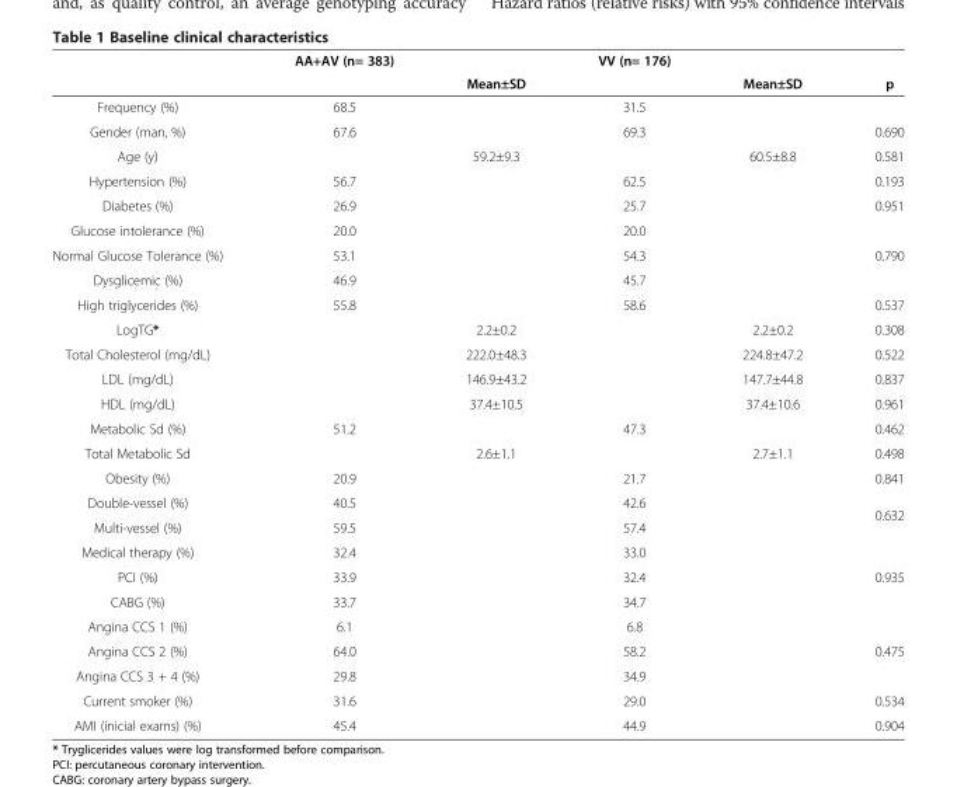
<table><thead><tr><td rowspan="2"></td><td rowspan="2">AA+AV (n= 383)</td><td rowspan="2">Mean±SD</td><td rowspan="2">VV (n= 176)</td><td rowspan="2">Mean±SD</td><td rowspan="2">p</td></tr><tr></tr></thead><tbody><tr><td>Frequency (%)</td><td>68.5</td><td></td><td>31.5</td><td></td><td></td></tr><tr><td>Gender (man, %)</td><td>67.6</td><td></td><td>69.3</td><td></td><td>0.690</td></tr><tr><td>Age (y)</td><td></td><td>59.2±9.3</td><td></td><td>60.5±8.8</td><td>0.581</td></tr><tr><td>Hypertension (%)</td><td>56.7</td><td></td><td>62.5</td><td></td><td>0.193</td></tr><tr><td>Diabetes (%)</td><td>26.9</td><td></td><td>25.7</td><td></td><td>0.951</td></tr><tr><td>Glucose intolerance (%)</td><td>20.0</td><td></td><td>20.0</td><td></td><td rowspan="3">0.790</td></tr><tr><td>Normal Glucose Tolerance (%)</td><td>53.1</td><td></td><td>54.3</td><td></td></tr><tr><td>Dysglicemic (%)</td><td>46.9</td><td></td><td>45.7</td><td></td></tr><tr><td>High triglycerides (%)</td><td>55.8</td><td></td><td>58.6</td><td></td><td>0.537</td></tr><tr><td>LogTG*</td><td></td><td>2.2±0.2</td><td></td><td>2.2±0.2</td><td>0.308</td></tr><tr><td>Total Cholesterol (mg/dL)</td><td></td><td>222.0±48.3</td><td></td><td>224.8±47.2</td><td>0.522</td></tr><tr><td>LDL (mg/dL)</td><td></td><td>146.9±43.2</td><td></td><td>147.7±44.8</td><td>0.837</td></tr><tr><td>HDL (mg/dL)</td><td></td><td>37.4±10.5</td><td></td><td>37.4±10.6</td><td>0.961</td></tr><tr><td>Metabolic Sd (%)</td><td>51.2</td><td></td><td>47.3</td><td></td><td>0.462</td></tr><tr><td>Total Metabolic Sd</td><td></td><td>2.6±1.1</td><td></td><td>2.7±1.1</td><td>0.498</td></tr><tr><td>Obesity (%)</td><td>20.9</td><td></td><td>21.7</td><td></td><td>0.841</td></tr><tr><td>Double-vessel (%)</td><td>40.5</td><td></td><td>42.6</td><td></td><td rowspan="2">0.632</td></tr><tr><td>Multi-vessel (%)</td><td>59.5</td><td></td><td>57.4</td><td></td></tr><tr><td>Medical therapy (%)</td><td>32.4</td><td></td><td>33.0</td><td></td><td rowspan="3">0.935</td></tr><tr><td>PCI (%)</td><td>33.9</td><td></td><td>32.4</td><td></td></tr><tr><td>CABG (%)</td><td>33.7</td><td></td><td>34.7</td><td></td></tr><tr><td>Angina CCS 1 (%)</td><td>6.1</td><td></td><td>6.8</td><td></td><td rowspan="3">0.475</td></tr><tr><td>Angina CCS 2 (%)</td><td>64.0</td><td></td><td>58.2</td><td></td></tr><tr><td>Angina CCS 3 + 4 (%)</td><td>29.8</td><td></td><td>34.9</td><td></td></tr><tr><td>Current smoker (%)</td><td>31.6</td><td></td><td>29.0</td><td></td><td>0.534</td></tr><tr><td>AMI (inicial exams) (%)</td><td>45.4</td><td></td><td>44.9</td><td></td><td>0.904</td></tr></tbody></table>